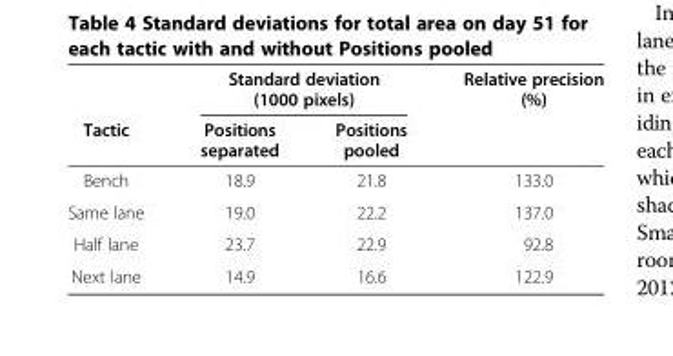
<table><thead><tr><td rowspan="2">Tactic</td><td colspan="2">Standard deviation (1000 pixels)</td><td rowspan="2">Relative precision (%)</td></tr><tr><td>Positions separated</td><td>Positions pooled</td></tr></thead><tbody><tr><td>Bench</td><td>18.9</td><td>21.8</td><td>133.0</td></tr><tr><td>Same lane</td><td>19.0</td><td>22.2</td><td>137.0</td></tr><tr><td>Half lane</td><td>23.7</td><td>22.9</td><td>92.8</td></tr><tr><td>Next lane</td><td>14.9</td><td>16.6</td><td>122.9</td></tr></tbody></table>